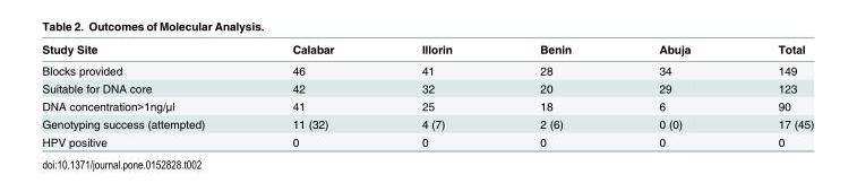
<table><thead><tr><td>Study Site</td><td>Calabar</td><td>Illorin</td><td>Benin</td><td>Abuja</td><td>Total</td></tr></thead><tbody><tr><td>Blocks provided</td><td>46</td><td>41</td><td>28</td><td>34</td><td>149</td></tr><tr><td>Suitable for DNA core</td><td>42</td><td>32</td><td>20</td><td>29</td><td>123</td></tr><tr><td>DNA concentration&gt;1ng/μl</td><td>41</td><td>25</td><td>18</td><td>6</td><td>90</td></tr><tr><td>Genotyping success (attempted)</td><td>11 (32)</td><td>4 (7)</td><td>2 (6)</td><td>0 (0)</td><td>17 (45)</td></tr><tr><td>HPV positive</td><td>0</td><td>0</td><td>0</td><td>0</td><td>0</td></tr></tbody></table>